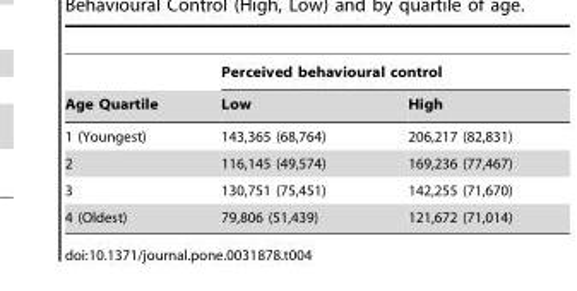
<table><thead><tr><td rowspan="2">Age Quartile</td><td colspan="2">Perceived behavioural control</td></tr><tr><td>Low</td><td>High</td></tr></thead><tbody><tr><td>1 (Youngest)</td><td>143,365 (68,764)</td><td>206,217 (82,831)</td></tr><tr><td>2</td><td>116,145 (49,574)</td><td>169,236 (77,467)</td></tr><tr><td>3</td><td>130,751 (75,451)</td><td>142,255 (71,670)</td></tr><tr><td>4 (Oldest)</td><td>79,806 (51,439)</td><td>121,672 (71,014)</td></tr></tbody></table>